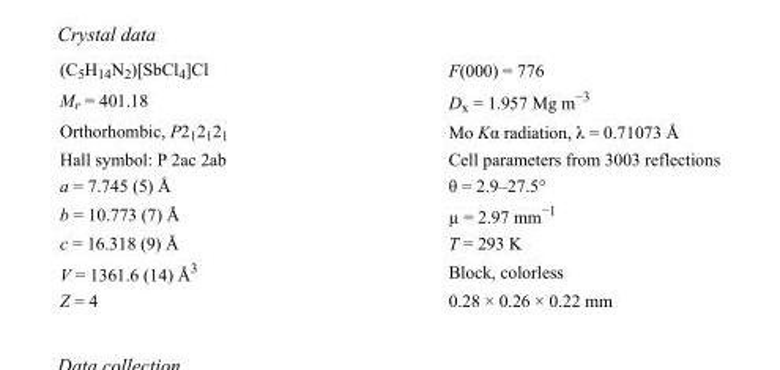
<table><tbody><tr><td>(C<sub>5</sub>H<sub>14</sub>N<sub>2</sub>)[SbCl<sub>4</sub>]Cl</td><td>F(000) = 776</td></tr><tr><td>M<sub>r</sub> = 401.18</td><td>D<sub>x</sub> = 1.957 Mg m<sup>−3</sup></td></tr><tr><td>Orthorhombic, P2<sub>1</sub>2<sub>1</sub>2<sub>1</sub></td><td>Mo Kα radiation, λ = 0.71073 Å</td></tr><tr><td>Hall symbol: P 2ac 2ab</td><td>Cell parameters from 3003 reflections</td></tr><tr><td>a = 7.745 (5) Å</td><td>θ = 2.9–27.5°</td></tr><tr><td>b = 10.773 (7) Å</td><td>µ = 2.97 mm<sup>−1</sup></td></tr><tr><td>c = 16.318 (9) Å</td><td>T = 293 K</td></tr><tr><td>V = 1361.6 (14) Å<sup>3</sup></td><td>Block, colorless</td></tr><tr><td>Z = 4</td><td>0.28 × 0.26 × 0.22 mm</td></tr></tbody></table>